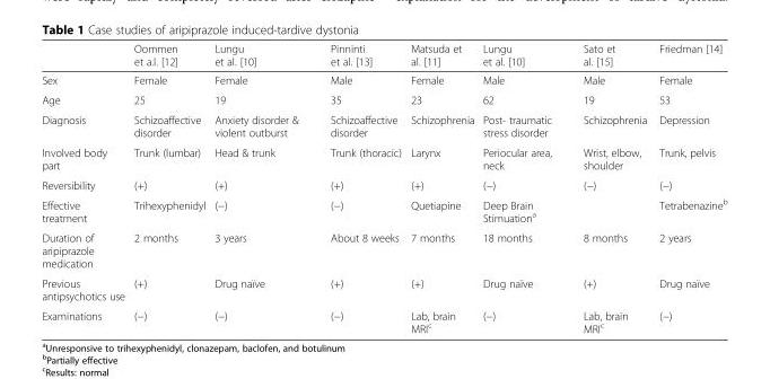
<table><thead><tr><td></td><td>Oommen et a.l. [12]</td><td>Lungu et al. [10]</td><td>Pinninti et al. [13]</td><td>Matsuda et al. [11]</td><td>Lungu et al. [10]</td><td>Sato et al. [15]</td><td>Friedman [14]</td></tr></thead><tbody><tr><td>Sex</td><td>Female</td><td>Female</td><td>Male</td><td>Female</td><td>Male</td><td>Male</td><td>Female</td></tr><tr><td>Age</td><td>25</td><td>19</td><td>35</td><td>23</td><td>62</td><td>19</td><td>53</td></tr><tr><td>Diagnosis</td><td>Schizoaffective disorder</td><td>Anxiety disorder &amp; violent outburst</td><td>Schizoaffective disorder</td><td>Schizophrenia</td><td>Post- traumatic stress disorder</td><td>Schizophrenia</td><td>Depression</td></tr><tr><td>Involved body part</td><td>Trunk (lumbar)</td><td>Head &amp; trunk</td><td>Trunk (thoracic)</td><td>Larynx</td><td>Periocular area, neck</td><td>Wrist, elbow, shoulder</td><td>Trunk, pelvis</td></tr><tr><td>Reversibility</td><td>(+)</td><td>(+)</td><td>(+)</td><td>(+)</td><td>(−)</td><td>(−)</td><td>(−)</td></tr><tr><td>Effective treatment</td><td>Trihexyphenidyl</td><td>(−)</td><td>(−)</td><td>Quetiapine</td><td>Deep Brain Stimuation<sup>a</sup></td><td></td><td>Tetrabenazine<sup>b</sup></td></tr><tr><td>Duration of aripiprazole medication</td><td>2 months</td><td>3 years</td><td>About 8 weeks</td><td>7 months</td><td>18 months</td><td>8 months</td><td>2 years</td></tr><tr><td>Previous antipsychotics use</td><td>(+)</td><td>Drug naïve</td><td>(+)</td><td>(+)</td><td>Drug naïve</td><td>(+)</td><td>Drug naïve</td></tr><tr><td>Examinations</td><td>(−)</td><td>(−)</td><td>(−)</td><td>Lab, brain MRI<sup>c</sup></td><td>(−)</td><td>Lab, brain MRI<sup>c</sup></td><td>(−)</td></tr></tbody></table>